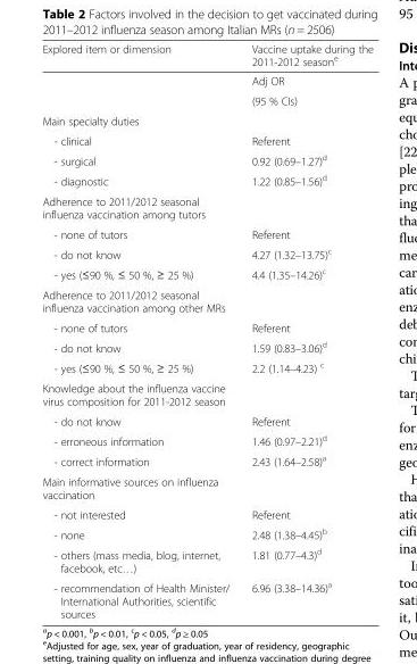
<table><thead><tr><td>Explored item or dimension</td><td>Vaccine uptake during the 2011-2012 season<sup>e</sup></td></tr></thead><tbody><tr><td rowspan="2"></td><td>Adj OR</td></tr><tr><td>(95 % CIs)</td></tr><tr><td colspan="2">Main specialty duties</td></tr><tr><td>- clinical</td><td>Referent</td></tr><tr><td>- surgical</td><td>0.92 (0.69–1.27)<sup>d</sup></td></tr><tr><td>- diagnostic</td><td>1.22 (0.85–1.56)<sup>d</sup></td></tr><tr><td colspan="2">Adherence to 2011/2012 seasonal influenza vaccination among tutors</td></tr><tr><td>- none of tutors</td><td>Referent</td></tr><tr><td>- do not know</td><td>4.27 (1.32–13.75)<sup>c</sup></td></tr><tr><td>- yes (≤90 %, ≤ 50 %, ≥ 25 %)</td><td>4.4 (1.35–14.26)<sup>c</sup></td></tr><tr><td colspan="2">Adherence to 2011/2012 seasonal influenza vaccination among other MRs</td></tr><tr><td>- none of tutors</td><td>Referent</td></tr><tr><td>- do not know</td><td>1.59 (0.83–3.06)<sup>d</sup></td></tr><tr><td>- yes (≤90 %, ≤ 50 %, ≥ 25 %)</td><td>2.2 (1.14–4.23) <sup>c</sup></td></tr><tr><td colspan="2">Knowledge about the influenza vaccine virus composition for 2011-2012 season</td></tr><tr><td>- do not know</td><td>Referent</td></tr><tr><td>- erroneous information</td><td>1.46 (0.97–2.21)<sup>d</sup></td></tr><tr><td>- correct information</td><td>2.43 (1.64–2.58)<sup>a</sup></td></tr><tr><td colspan="2">Main informative sources on influenza vaccination</td></tr><tr><td>- not interested</td><td>Referent</td></tr><tr><td>- none</td><td>2.48 (1.38–4.45)<sup>b</sup></td></tr><tr><td>- others (mass media, blog, internet, facebook, etc…)</td><td>1.81 (0.77–4.3)<sup>d</sup></td></tr><tr><td>- recommendation of Health Minister/ International Authorities, scientific sources</td><td>6.96 (3.38–14.36)<sup>a</sup></td></tr></tbody></table>